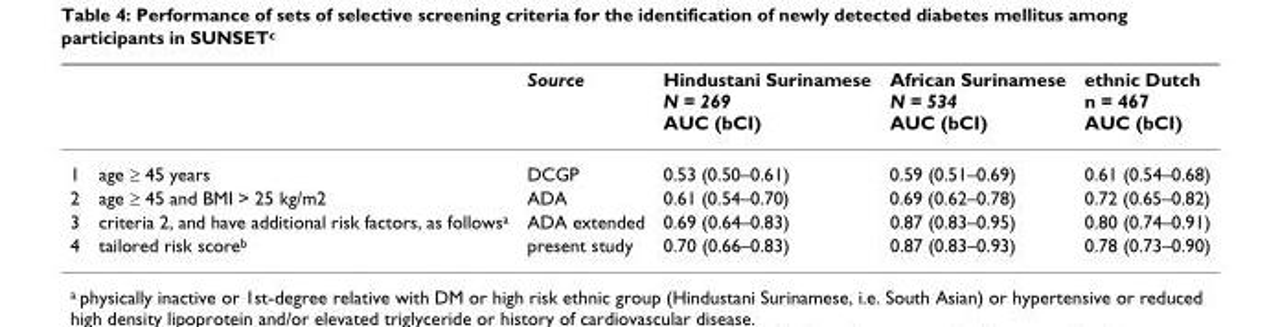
<table><thead><tr><td></td><td></td><td>Source</td><td>Hindustani Surinamese N = 269 AUC (bCI)</td><td>African Surinamese N = 534 AUC (bCI)</td><td>ethnic Dutch n = 467 AUC (bCI)</td></tr></thead><tbody><tr><td>1</td><td>age ≥ 45 years</td><td>DCGP</td><td>0.53 (0.50–0.61)</td><td>0.59 (0.51–0.69)</td><td>0.61 (0.54–0.68)</td></tr><tr><td>2</td><td>age ≥ 45 and BMI &gt; 25 kg/m2</td><td>ADA</td><td>0.61 (0.54–0.70)</td><td>0.69 (0.62–0.78)</td><td>0.72 (0.65–0.82)</td></tr><tr><td>3</td><td>criteria 2, and have additional risk factors, as follows<sup>a</sup></td><td>ADA extended</td><td>0.69 (0.64–0.83)</td><td>0.87 (0.83–0.95)</td><td>0.80 (0.74–0.91)</td></tr><tr><td>4</td><td>tailored risk score<sup>b</sup></td><td>present study</td><td>0.70 (0.66–0.83)</td><td>0.87 (0.83–0.93)</td><td>0.78 (0.73–0.90)</td></tr></tbody></table>